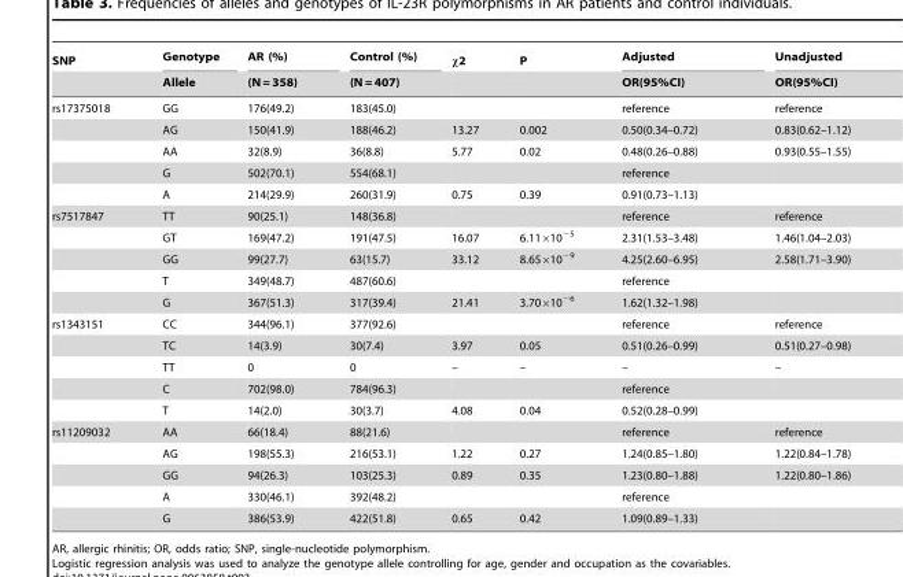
<table><thead><tr><td rowspan="2">SNP</td><td rowspan="2">Genotype Allele</td><td rowspan="2">AR (%) (N = 358)</td><td rowspan="2">Control (%) (N = 407)</td><td rowspan="2">χ2</td><td rowspan="2">P</td><td rowspan="2">Adjusted OR(95%CI)</td><td rowspan="2">Unadjusted OR(95%CI)</td></tr><tr></tr></thead><tbody><tr><td rowspan="5">rs17375018</td><td>GG</td><td>176(49.2)</td><td>183(45.0)</td><td></td><td></td><td>reference</td><td>reference</td></tr><tr><td>AG</td><td>150(41.9)</td><td>188(46.2)</td><td>13.27</td><td>0.002</td><td>0.50(0.34–0.72)</td><td>0.83(0.62–1.12)</td></tr><tr><td>AA</td><td>32(8.9)</td><td>36(8.8)</td><td>5.77</td><td>0.02</td><td>0.48(0.26–0.88)</td><td>0.93(0.55–1.55)</td></tr><tr><td>G</td><td>502(70.1)</td><td>554(68.1)</td><td></td><td></td><td>reference</td><td></td></tr><tr><td>A</td><td>214(29.9)</td><td>260(31.9)</td><td>0.75</td><td>0.39</td><td>0.91(0.73–1.13)</td><td></td></tr><tr><td rowspan="5">rs7517847</td><td>TT</td><td>90(25.1)</td><td>148(36.8)</td><td></td><td></td><td>reference</td><td>reference</td></tr><tr><td>GT</td><td>169(47.2)</td><td>191(47.5)</td><td>16.07</td><td>6.11×10<sup>−5</sup></td><td>2.31(1.53–3.48)</td><td>1.46(1.04–2.03)</td></tr><tr><td>GG</td><td>99(27.7)</td><td>63(15.7)</td><td>33.12</td><td>8.65×10<sup>−9</sup></td><td>4.25(2.60–6.95)</td><td>2.58(1.71–3.90)</td></tr><tr><td>T</td><td>349(48.7)</td><td>487(60.6)</td><td></td><td></td><td>reference</td><td></td></tr><tr><td>G</td><td>367(51.3)</td><td>317(39.4)</td><td>21.41</td><td>3.70×10<sup>−6</sup></td><td>1.62(1.32–1.98)</td><td></td></tr><tr><td rowspan="5">rs1343151</td><td>CC</td><td>344(96.1)</td><td>377(92.6)</td><td></td><td></td><td>reference</td><td>reference</td></tr><tr><td>TC</td><td>14(3.9)</td><td>30(7.4)</td><td>3.97</td><td>0.05</td><td>0.51(0.26–0.99)</td><td>0.51(0.27–0.98)</td></tr><tr><td>TT</td><td>0</td><td>0</td><td>–</td><td>–</td><td>–</td><td>–</td></tr><tr><td>C</td><td>702(98.0)</td><td>784(96.3)</td><td></td><td></td><td>reference</td><td></td></tr><tr><td>T</td><td>14(2.0)</td><td>30(3.7)</td><td>4.08</td><td>0.04</td><td>0.52(0.28–0.99)</td><td></td></tr><tr><td rowspan="5">rs11209032</td><td>AA</td><td>66(18.4)</td><td>88(21.6)</td><td></td><td></td><td>reference</td><td>reference</td></tr><tr><td>AG</td><td>198(55.3)</td><td>216(53.1)</td><td>1.22</td><td>0.27</td><td>1.24(0.85–1.80)</td><td>1.22(0.84–1.78)</td></tr><tr><td>GG</td><td>94(26.3)</td><td>103(25.3)</td><td>0.89</td><td>0.35</td><td>1.23(0.80–1.88)</td><td>1.22(0.80–1.86)</td></tr><tr><td>A</td><td>330(46.1)</td><td>392(48.2)</td><td></td><td></td><td>reference</td><td></td></tr><tr><td>G</td><td>386(53.9)</td><td>422(51.8)</td><td>0.65</td><td>0.42</td><td>1.09(0.89–1.33)</td><td></td></tr></tbody></table>